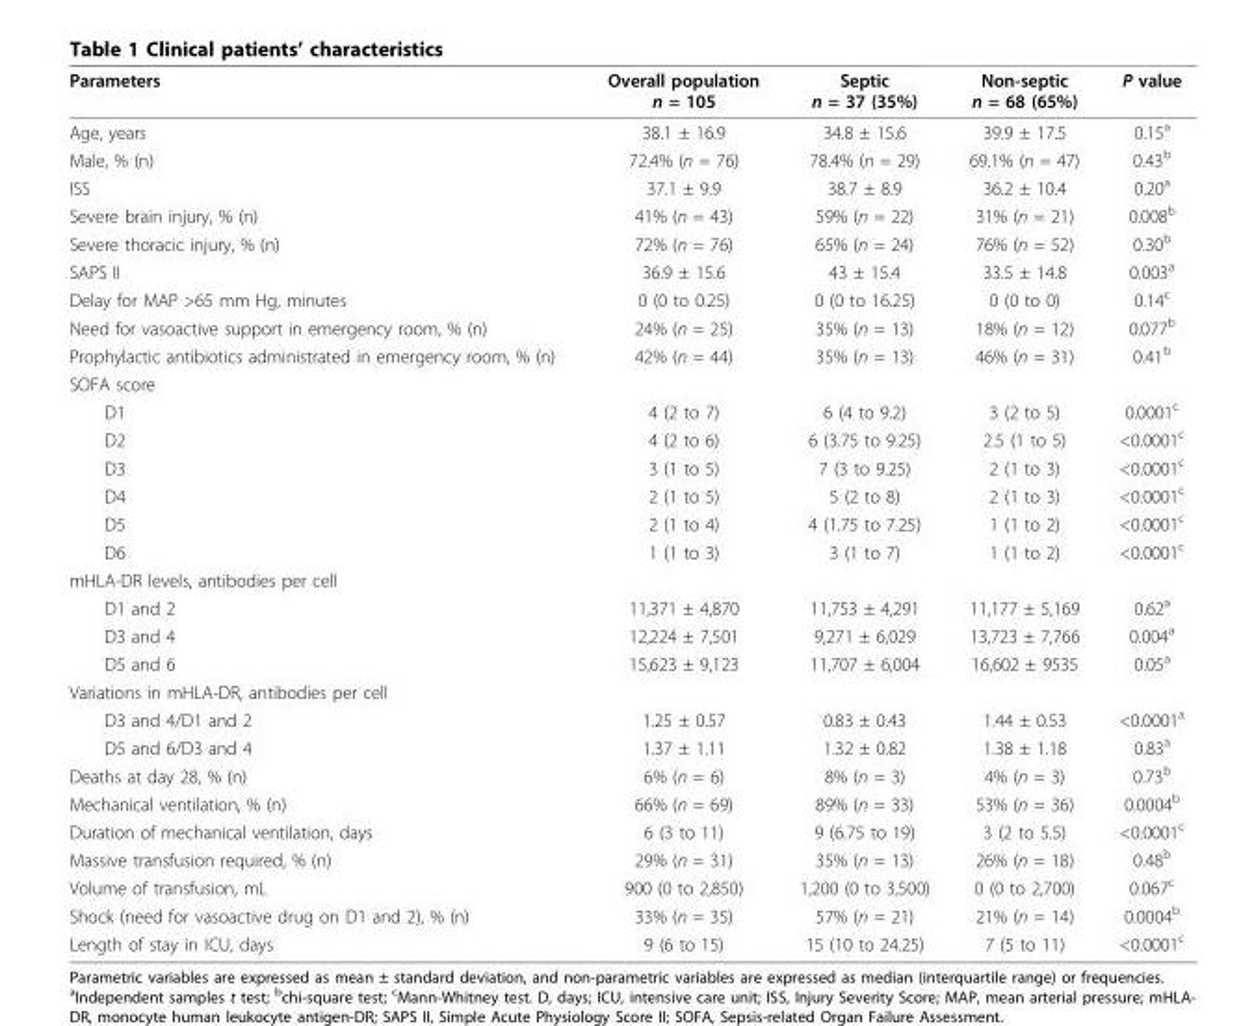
<table><thead><tr><td>Parameters</td><td>Overall population n = 105</td><td>Septic n = 37 (35%)</td><td>Non-septic n = 68 (65%)</td><td>P value</td></tr></thead><tbody><tr><td>Age, years</td><td>38.1 ± 16.9</td><td>34.8 ± 15.6</td><td>39.9 ± 17.5</td><td>0.15<sup>a</sup></td></tr><tr><td>Male, % (n)</td><td>72.4% (n = 76)</td><td>78.4% (n = 29)</td><td>69.1% (n = 47)</td><td>0.43<sup>b</sup></td></tr><tr><td>ISS</td><td>37.1 ± 9.9</td><td>38.7 ± 8.9</td><td>36.2 ± 10.4</td><td>0.20<sup>a</sup></td></tr><tr><td>Severe brain injury, % (n)</td><td>41% (n = 43)</td><td>59% (n = 22)</td><td>31% (n = 21)</td><td>0.008<sup>b</sup></td></tr><tr><td>Severe thoracic injury, % (n)</td><td>72% (n = 76)</td><td>65% (n = 24)</td><td>76% (n = 52)</td><td>0.30<sup>b</sup></td></tr><tr><td>SAPS II</td><td>36.9 ± 15.6</td><td>43 ± 15.4</td><td>33.5 ± 14.8</td><td>0.003<sup>a</sup></td></tr><tr><td>Delay for MAP &gt;65 mm Hg, minutes</td><td>0 (0 to 0.25)</td><td>0 (0 to 16.25)</td><td>0 (0 to 0)</td><td>0.14<sup>c</sup></td></tr><tr><td>Need for vasoactive support in emergency room, % (n)</td><td>24% (n = 25)</td><td>35% (n = 13)</td><td>18% (n = 12)</td><td>0.077<sup>b</sup></td></tr><tr><td>Prophylactic antibiotics administrated in emergency room, % (n)</td><td>42% (n = 44)</td><td>35% (n = 13)</td><td>46% (n = 31)</td><td>0.41<sup>b</sup></td></tr><tr><td colspan="5">SOFA score</td></tr><tr><td>D1</td><td>4 (2 to 7)</td><td>6 (4 to 9.2)</td><td>3 (2 to 5)</td><td>0.0001<sup>c</sup></td></tr><tr><td>D2</td><td>4 (2 to 6)</td><td>6 (3.75 to 9.25)</td><td>2.5 (1 to 5)</td><td>&lt;0.0001<sup>c</sup></td></tr><tr><td>D3</td><td>3 (1 to 5)</td><td>7 (3 to 9.25)</td><td>2 (1 to 3)</td><td>&lt;0.0001<sup>c</sup></td></tr><tr><td>D4</td><td>2 (1 to 5)</td><td>5 (2 to 8)</td><td>2 (1 to 3)</td><td>&lt;0.0001<sup>c</sup></td></tr><tr><td>D5</td><td>2 (1 to 4)</td><td>4 (1.75 to 7.25)</td><td>1 (1 to 2)</td><td>&lt;0.0001<sup>c</sup></td></tr><tr><td>D6</td><td>1 (1 to 3)</td><td>3 (1 to 7)</td><td>1 (1 to 2)</td><td>&lt;0.0001<sup>c</sup></td></tr><tr><td colspan="5">mHLA-DR levels, antibodies per cell</td></tr><tr><td>D1 and 2</td><td>11,371 ± 4,870</td><td>11,753 ± 4,291</td><td>11,177 ± 5,169</td><td>0.62<sup>a</sup></td></tr><tr><td>D3 and 4</td><td>12,224 ± 7,501</td><td>9,271 ± 6,029</td><td>13,723 ± 7,766</td><td>0.004<sup>a</sup></td></tr><tr><td>D5 and 6</td><td>15,623 ± 9,123</td><td>11,707 ± 6,004</td><td>16,602 ± 9535</td><td>0.05<sup>a</sup></td></tr><tr><td colspan="5">Variations in mHLA-DR, antibodies per cell</td></tr><tr><td>D3 and 4/D1 and 2</td><td>1.25 ± 0.57</td><td>0.83 ± 0.43</td><td>1.44 ± 0.53</td><td>&lt;0.0001<sup>a</sup></td></tr><tr><td>D5 and 6/D3 and 4</td><td>1.37 ± 1.11</td><td>1.32 ± 0.82</td><td>1.38 ± 1.18</td><td>0.83<sup>a</sup></td></tr><tr><td>Deaths at day 28, % (n)</td><td>6% (n = 6)</td><td>8% (n = 3)</td><td>4% (n = 3)</td><td>0.73<sup>b</sup></td></tr><tr><td>Mechanical ventilation, % (n)</td><td>66% (n = 69)</td><td>89% (n = 33)</td><td>53% (n = 36)</td><td>0.0004<sup>b</sup></td></tr><tr><td>Duration of mechanical ventilation, days</td><td>6 (3 to 11)</td><td>9 (6.75 to 19)</td><td>3 (2 to 5.5)</td><td>&lt;0.0001<sup>c</sup></td></tr><tr><td>Massive transfusion required, % (n)</td><td>29% (n = 31)</td><td>35% (n = 13)</td><td>26% (n = 18)</td><td>0.48<sup>b</sup></td></tr><tr><td>Volume of transfusion, mL</td><td>900 (0 to 2,850)</td><td>1,200 (0 to 3,500)</td><td>0 (0 to 2,700)</td><td>0.067<sup>c</sup></td></tr><tr><td>Shock (need for vasoactive drug on D1 and 2), % (n)</td><td>33% (n = 35)</td><td>57% (n = 21)</td><td>21% (n = 14)</td><td>0.0004<sup>b</sup></td></tr><tr><td>Length of stay in ICU, days</td><td>9 (6 to 15)</td><td>15 (10 to 24.25)</td><td>7 (5 to 11)</td><td>&lt;0.0001<sup>c</sup></td></tr></tbody></table>